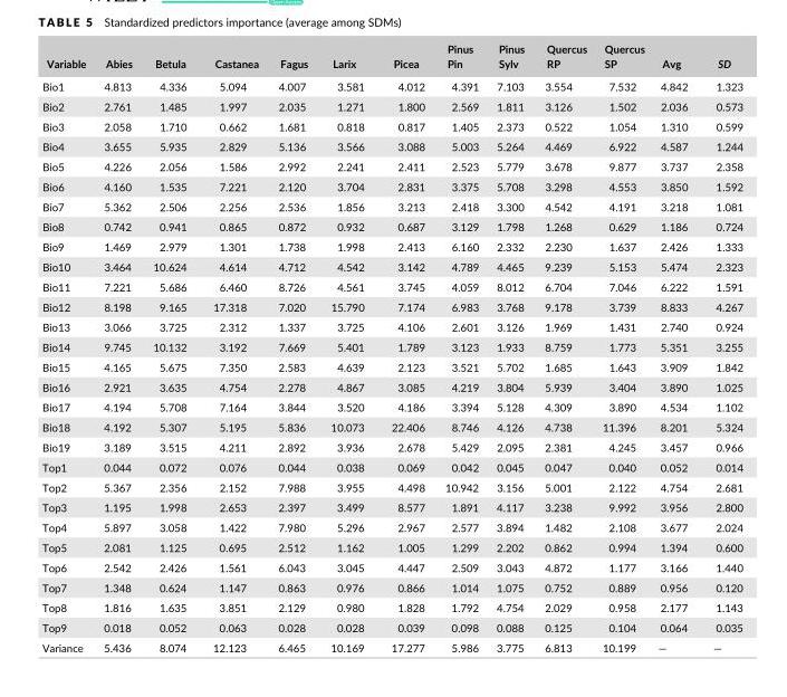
<table><thead><tr><td>Variable</td><td>Abies</td><td>Betula</td><td>Castanea</td><td>Fagus</td><td>Larix</td><td>Picea</td><td>Pinus Pin</td><td>Pinus Sylv</td><td>Quercus RP</td><td>Quercus SP</td><td>Avg</td><td>SD</td></tr></thead><tbody><tr><td>Bio1</td><td>4.813</td><td>4.336</td><td>5.094</td><td>4.007</td><td>3.581</td><td>4.012</td><td>4.391</td><td>7.103</td><td>3.554</td><td>7.532</td><td>4.842</td><td>1.323</td></tr><tr><td>Bio2</td><td>2.761</td><td>1.485</td><td>1.997</td><td>2.035</td><td>1.271</td><td>1.800</td><td>2.569</td><td>1.811</td><td>3.126</td><td>1.502</td><td>2.036</td><td>0.573</td></tr><tr><td>Bio3</td><td>2.058</td><td>1.710</td><td>0.662</td><td>1.681</td><td>0.818</td><td>0.817</td><td>1.405</td><td>2.373</td><td>0.522</td><td>1.054</td><td>1.310</td><td>0.599</td></tr><tr><td>Bio4</td><td>3.655</td><td>5.935</td><td>2.829</td><td>5.136</td><td>3.566</td><td>3.088</td><td>5.003</td><td>5.264</td><td>4.469</td><td>6.922</td><td>4.587</td><td>1.244</td></tr><tr><td>Bio5</td><td>4.226</td><td>2.056</td><td>1.586</td><td>2.992</td><td>2.241</td><td>2.411</td><td>2.523</td><td>5.779</td><td>3.678</td><td>9.877</td><td>3.737</td><td>2.358</td></tr><tr><td>Bio6</td><td>4.160</td><td>1.535</td><td>7.221</td><td>2.120</td><td>3.704</td><td>2.831</td><td>3.375</td><td>5.708</td><td>3.298</td><td>4.553</td><td>3.850</td><td>1.592</td></tr><tr><td>Bio7</td><td>5.362</td><td>2.506</td><td>2.256</td><td>2.536</td><td>1.856</td><td>3.213</td><td>2.418</td><td>3.300</td><td>4.542</td><td>4.191</td><td>3.218</td><td>1.081</td></tr><tr><td>Bio8</td><td>0.742</td><td>0.941</td><td>0.865</td><td>0.872</td><td>0.932</td><td>0.687</td><td>3.129</td><td>1.798</td><td>1.268</td><td>0.629</td><td>1.186</td><td>0.724</td></tr><tr><td>Bio9</td><td>1.469</td><td>2.979</td><td>1.301</td><td>1.738</td><td>1.998</td><td>2.413</td><td>6.160</td><td>2.332</td><td>2.230</td><td>1.637</td><td>2.426</td><td>1.333</td></tr><tr><td>Bio10</td><td>3.464</td><td>10.624</td><td>4.614</td><td>4.712</td><td>4.542</td><td>3.142</td><td>4.789</td><td>4.465</td><td>9.239</td><td>5.153</td><td>5.474</td><td>2.323</td></tr><tr><td>Bio11</td><td>7.221</td><td>5.686</td><td>6.460</td><td>8.726</td><td>4.561</td><td>3.745</td><td>4.059</td><td>8.012</td><td>6.704</td><td>7.046</td><td>6.222</td><td>1.591</td></tr><tr><td>Bio12</td><td>8.198</td><td>9.165</td><td>17.318</td><td>7.020</td><td>15.790</td><td>7.174</td><td>6.983</td><td>3.768</td><td>9.178</td><td>3.739</td><td>8.833</td><td>4.267</td></tr><tr><td>Bio13</td><td>3.066</td><td>3.725</td><td>2.312</td><td>1.337</td><td>3.725</td><td>4.106</td><td>2.601</td><td>3.126</td><td>1.969</td><td>1.431</td><td>2.740</td><td>0.924</td></tr><tr><td>Bio14</td><td>9.745</td><td>10.132</td><td>3.192</td><td>7.669</td><td>5.401</td><td>1.789</td><td>3.123</td><td>1.933</td><td>8.759</td><td>1.773</td><td>5.351</td><td>3.255</td></tr><tr><td>Bio15</td><td>4.165</td><td>5.675</td><td>7.350</td><td>2.583</td><td>4.639</td><td>2.123</td><td>3.521</td><td>5.702</td><td>1.685</td><td>1.643</td><td>3.909</td><td>1.842</td></tr><tr><td>Bio16</td><td>2.921</td><td>3.635</td><td>4.754</td><td>2.278</td><td>4.867</td><td>3.085</td><td>4.219</td><td>3.804</td><td>5.939</td><td>3.404</td><td>3.890</td><td>1.025</td></tr><tr><td>Bio17</td><td>4.194</td><td>5.708</td><td>7.164</td><td>3.844</td><td>3.520</td><td>4.186</td><td>3.394</td><td>5.128</td><td>4.309</td><td>3.890</td><td>4.534</td><td>1.102</td></tr><tr><td>Bio18</td><td>4.192</td><td>5.307</td><td>5.195</td><td>5.836</td><td>10.073</td><td>22.406</td><td>8.746</td><td>4.126</td><td>4.738</td><td>11.396</td><td>8.201</td><td>5.324</td></tr><tr><td>Bio19</td><td>3.189</td><td>3.515</td><td>4.211</td><td>2.892</td><td>3.936</td><td>2.678</td><td>5.429</td><td>2.095</td><td>2.381</td><td>4.245</td><td>3.457</td><td>0.966</td></tr><tr><td>Top1</td><td>0.044</td><td>0.072</td><td>0.076</td><td>0.044</td><td>0.038</td><td>0.069</td><td>0.042</td><td>0.045</td><td>0.047</td><td>0.040</td><td>0.052</td><td>0.014</td></tr><tr><td>Top2</td><td>5.367</td><td>2.356</td><td>2.152</td><td>7.988</td><td>3.955</td><td>4.498</td><td>10.942</td><td>3.156</td><td>5.001</td><td>2.122</td><td>4.754</td><td>2.681</td></tr><tr><td>Top3</td><td>1.195</td><td>1.998</td><td>2.653</td><td>2.397</td><td>3.499</td><td>8.577</td><td>1.891</td><td>4.117</td><td>3.238</td><td>9.992</td><td>3.956</td><td>2.800</td></tr><tr><td>Top4</td><td>5.897</td><td>3.058</td><td>1.422</td><td>7.980</td><td>5.296</td><td>2.967</td><td>2.577</td><td>3.894</td><td>1.482</td><td>2.108</td><td>3.677</td><td>2.024</td></tr><tr><td>Top5</td><td>2.081</td><td>1.125</td><td>0.695</td><td>2.512</td><td>1.162</td><td>1.005</td><td>1.299</td><td>2.202</td><td>0.862</td><td>0.994</td><td>1.394</td><td>0.600</td></tr><tr><td>Top6</td><td>2.542</td><td>2.426</td><td>1.561</td><td>6.043</td><td>3.045</td><td>4.447</td><td>2.509</td><td>3.043</td><td>4.872</td><td>1.177</td><td>3.166</td><td>1.440</td></tr><tr><td>Top7</td><td>1.348</td><td>0.624</td><td>1.147</td><td>0.863</td><td>0.976</td><td>0.866</td><td>1.014</td><td>1.075</td><td>0.752</td><td>0.889</td><td>0.956</td><td>0.120</td></tr><tr><td>Top8</td><td>1.816</td><td>1.635</td><td>3.851</td><td>2.129</td><td>0.980</td><td>1.828</td><td>1.792</td><td>4.754</td><td>2.029</td><td>0.958</td><td>2.177</td><td>1.143</td></tr><tr><td>Top9</td><td>0.018</td><td>0.052</td><td>0.063</td><td>0.028</td><td>0.028</td><td>0.039</td><td>0.098</td><td>0.088</td><td>0.125</td><td>0.104</td><td>0.064</td><td>0.035</td></tr><tr><td>Variance</td><td>5.436</td><td>8.074</td><td>12.123</td><td>6.465</td><td>10.169</td><td>17.277</td><td>5.986</td><td>3.775</td><td>6.813</td><td>10.199</td><td>—</td><td>—</td></tr></tbody></table>